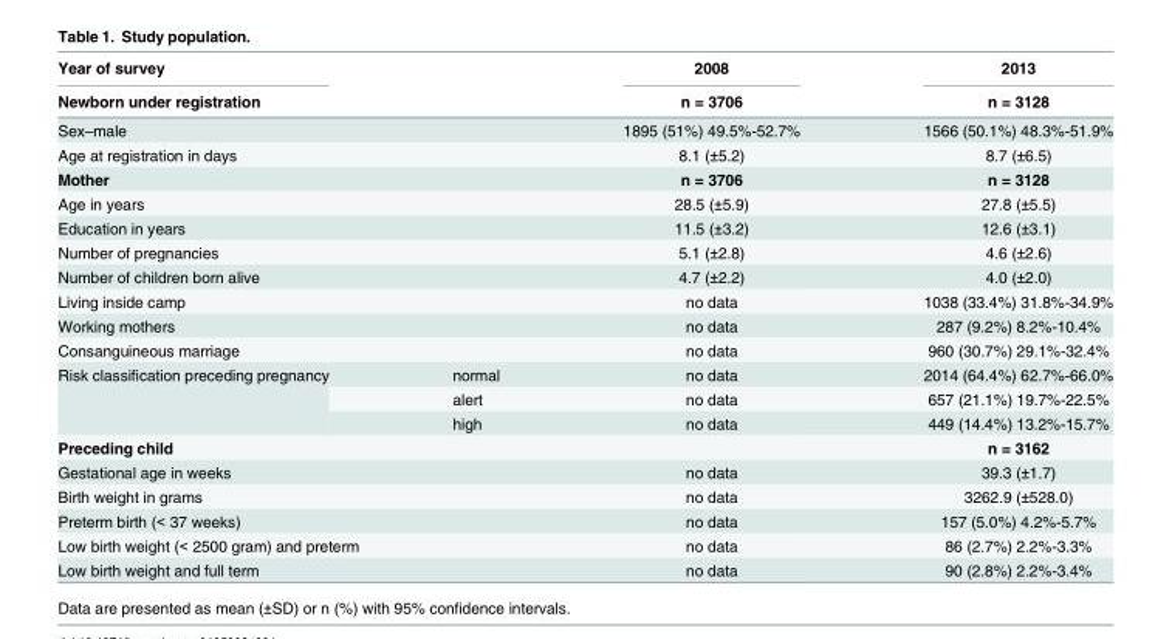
<table><thead><tr><td>Year of survey</td><td></td><td rowspan="2">2008 n = 3706</td><td rowspan="2">2013 n = 3128</td></tr><tr><td colspan="2">Newborn under registration</td></tr></thead><tbody><tr><td>Sex–male</td><td></td><td>1895 (51%) 49.5%-52.7%</td><td>1566 (50.1%) 48.3%-51.9%</td></tr><tr><td colspan="2">Age at registration in days</td><td>8.1 (±5.2)</td><td>8.7 (±6.5)</td></tr><tr><td>Mother</td><td></td><td>n = 3706</td><td>n = 3128</td></tr><tr><td>Age in years</td><td></td><td>28.5 (±5.9)</td><td>27.8 (±5.5)</td></tr><tr><td>Education in years</td><td></td><td>11.5 (±3.2)</td><td>12.6 (±3.1)</td></tr><tr><td colspan="2">Number of pregnancies</td><td>5.1 (±2.8)</td><td>4.6 (±2.6)</td></tr><tr><td colspan="2">Number of children born alive</td><td>4.7 (±2.2)</td><td>4.0 (±2.0)</td></tr><tr><td>Living inside camp</td><td></td><td>no data</td><td>1038 (33.4%) 31.8%-34.9%</td></tr><tr><td>Working mothers</td><td></td><td>no data</td><td>287 (9.2%) 8.2%-10.4%</td></tr><tr><td colspan="2">Consanguineous marriage</td><td>no data</td><td>960 (30.7%) 29.1%-32.4%</td></tr><tr><td rowspan="3">Risk classification preceding pregnancy</td><td>normal</td><td>no data</td><td>2014 (64.4%) 62.7%-66.0%</td></tr><tr><td>alert</td><td>no data</td><td>657 (21.1%) 19.7%-22.5%</td></tr><tr><td>high</td><td>no data</td><td>449 (14.4%) 13.2%-15.7%</td></tr><tr><td>Preceding child</td><td></td><td></td><td>n = 3162</td></tr><tr><td colspan="2">Gestational age in weeks</td><td>no data</td><td>39.3 (±1.7)</td></tr><tr><td>Birth weight in grams</td><td></td><td>no data</td><td>3262.9 (±528.0)</td></tr><tr><td colspan="2">Preterm birth (&lt; 37 weeks)</td><td>no data</td><td>157 (5.0%) 4.2%-5.7%</td></tr><tr><td colspan="2">Low birth weight (&lt; 2500 gram) and preterm</td><td>no data</td><td>86 (2.7%) 2.2%-3.3%</td></tr><tr><td colspan="2">Low birth weight and full term</td><td>no data</td><td>90 (2.8%) 2.2%-3.4%</td></tr></tbody></table>